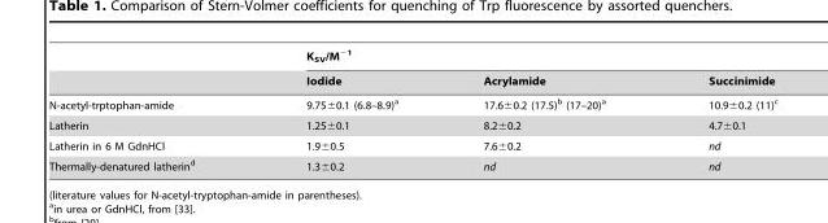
<table><thead><tr><td rowspan="2"></td><td colspan="3">K<sub>SV</sub>/M<sup>−1</sup></td></tr><tr><td>Iodide</td><td>Acrylamide</td><td>Succinimide</td></tr></thead><tbody><tr><td>N-acetyl-trptophan-amide</td><td>9.75±0.1 (6.8–8.9)<sup>a</sup></td><td>17.6±0.2 (17.5)<sup>b</sup> (17–20)<sup>a</sup></td><td>10.9±0.2 (11)<sup>c</sup></td></tr><tr><td>Latherin</td><td>1.25±0.1</td><td>8.2±0.2</td><td>4.7±0.1</td></tr><tr><td>Latherin in 6 M GdnHCl</td><td>1.9±0.5</td><td>7.6±0.2</td><td>nd</td></tr><tr><td>Thermally-denatured latherin<sup>d</sup></td><td>1.3±0.2</td><td>nd</td><td>nd</td></tr></tbody></table>